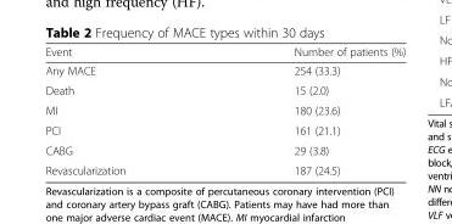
<table><thead><tr><td>Event</td><td>Number of patients (%)</td></tr></thead><tbody><tr><td>Any MACE</td><td>254 (33.3)</td></tr><tr><td>Death</td><td>15 (2.0)</td></tr><tr><td>MI</td><td>180 (23.6)</td></tr><tr><td>PCI</td><td>161 (21.1)</td></tr><tr><td>CABG</td><td>29 (3.8)</td></tr><tr><td>Revascularization</td><td>187 (24.5)</td></tr></tbody></table>